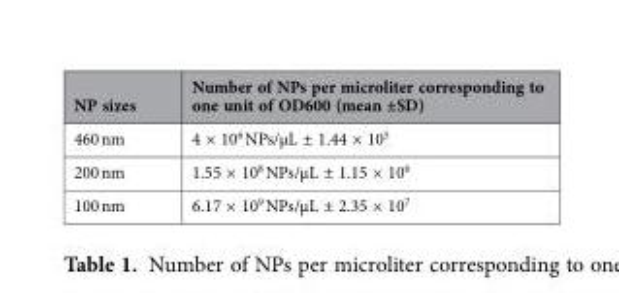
<table><thead><tr><td>NP sizes</td><td>Number of NPs per microliter corresponding to one unit of OD600 (mean ±SD)</td></tr></thead><tbody><tr><td>460 nm</td><td>4 × 10<sup>6</sup> NPs/μL ± 1.44 × 10<sup>5</sup></td></tr><tr><td>200 nm</td><td>1.55 × 10<sup>8</sup> NPs/μL ± 1.15 × 10<sup>6</sup></td></tr><tr><td>100 nm</td><td>6.17 × 10<sup>9</sup> NPs/μL ± 2.35 × 10<sup>7</sup></td></tr></tbody></table>